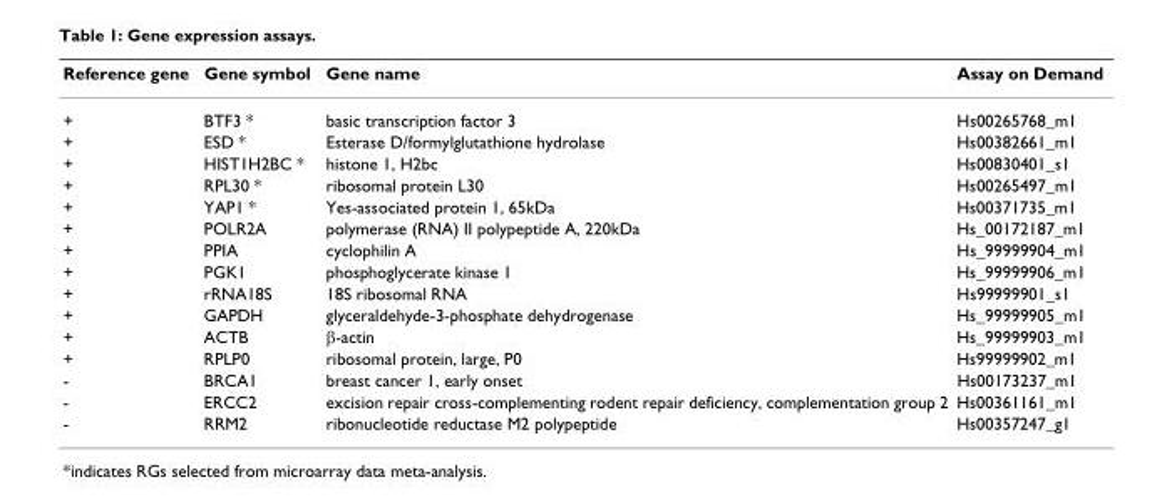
<table><thead><tr><td>Reference gene</td><td>Gene symbol</td><td>Gene name</td><td>Assay on Demand</td></tr></thead><tbody><tr><td>+</td><td>BTF3 *</td><td>basic transcription factor 3</td><td>Hs00265768_m1</td></tr><tr><td>+</td><td>ESD *</td><td>Esterase D/formylglutathione hydrolase</td><td>Hs00382661_m1</td></tr><tr><td>+</td><td>HIST1H2BC *</td><td>histone 1, H2bc</td><td>Hs00830401_s1</td></tr><tr><td>+</td><td>RPL30 *</td><td>ribosomal protein L30</td><td>Hs00265497_m1</td></tr><tr><td>+</td><td>YAP1 *</td><td>Yes-associated protein 1, 65kDa</td><td>Hs00371735_m1</td></tr><tr><td>+</td><td>POLR2A</td><td>polymerase (RNA) II polypeptide A, 220kDa</td><td>Hs_00172187_m1</td></tr><tr><td>+</td><td>PPIA</td><td>cyclophilin A</td><td>Hs_99999904_m1</td></tr><tr><td>+</td><td>PGK1</td><td>phosphoglycerate kinase 1</td><td>Hs_99999906_m1</td></tr><tr><td>+</td><td>rRNA18S</td><td>18S ribosomal RNA</td><td>Hs99999901_s1</td></tr><tr><td>+</td><td>GAPDH</td><td>glyceraldehyde-3-phosphate dehydrogenase</td><td>Hs_99999905_m1</td></tr><tr><td>+</td><td>ACTB</td><td>β-actin</td><td>Hs_99999903_m1</td></tr><tr><td>+</td><td>RPLP0</td><td>ribosomal protein, large, P0</td><td>Hs99999902_m1</td></tr><tr><td>-</td><td>BRCA1</td><td>breast cancer 1, early onset</td><td>Hs00173237_m1</td></tr><tr><td>-</td><td>ERCC2</td><td>excision repair cross-complementing rodent repair deficiency, complementation group 2</td><td>Hs00361161_m1</td></tr><tr><td>-</td><td>RRM2</td><td>ribonucleotide reductase M2 polypeptide</td><td>Hs00357247_g1</td></tr></tbody></table>